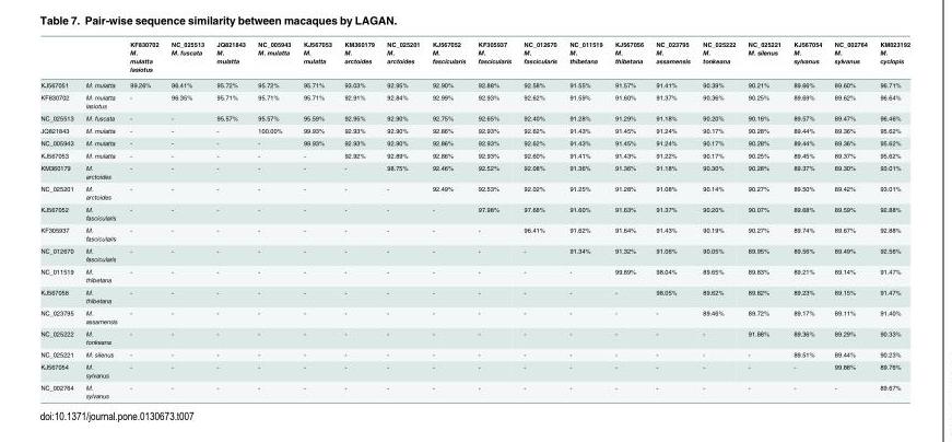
<table><thead><tr><td rowspan="2"></td><td rowspan="2"></td><td rowspan="2">KF830702 M. mulatta lasiotus</td><td rowspan="2">NC_025513 M. fuscata</td><td rowspan="2">JQ821843 M. mulatta</td><td rowspan="2">NC_005943 M. mulatta</td><td rowspan="2">KJ567053 M. mulatta</td><td rowspan="2">KM360179 M. arctoides</td><td rowspan="2">NC_025201 M. arctoides</td><td rowspan="2">KJ567052 M. fascicularis</td><td rowspan="2">KF305937 M. fascicularis</td><td rowspan="2">NC_012670 M. fascicularis</td><td rowspan="2">NC_011519 M. thibetana</td><td rowspan="2">KJ567056 M. thibetana</td><td rowspan="2">NC_023795 M. assamensis</td><td rowspan="2">NC_025222 M. tonkeana</td><td rowspan="2">NC_025221 M. silenus</td><td rowspan="2">KJ567054 M. sylvanus</td><td rowspan="2">NC_002764 M. sylvanus</td><td rowspan="2">KM023192 M. cyclopis</td></tr><tr></tr></thead><tbody><tr><td>KJ567051</td><td>M. mulatta</td><td>99.26%</td><td>96.41%</td><td>95.72%</td><td>95.72%</td><td>95.71%</td><td>93.03%</td><td>92.95%</td><td>92.90%</td><td>92.88%</td><td>92.58%</td><td>91.55%</td><td>91.57%</td><td>91.41%</td><td>90.39%</td><td>90.21%</td><td>89.66%</td><td>89.60%</td><td>96.71%</td></tr><tr><td>KF830702</td><td>M. mulatta lasiotus</td><td>-</td><td>96.35%</td><td>95.71%</td><td>95.71%</td><td>95.71%</td><td>92.91%</td><td>92.84%</td><td>92.99%</td><td>92.93%</td><td>92.62%</td><td>91.59%</td><td>91.60%</td><td>91.37%</td><td>90.36%</td><td>90.25%</td><td>89.69%</td><td>89.62%</td><td>96.64%</td></tr><tr><td>NC_025513</td><td>M. fuscata</td><td>-</td><td>-</td><td>95.57%</td><td>95.57%</td><td>95.59%</td><td>92.95%</td><td>92.90%</td><td>92.75%</td><td>92.65%</td><td>92.40%</td><td>91.28%</td><td>91.29%</td><td>91.18%</td><td>90.20%</td><td>90.16%</td><td>89.57%</td><td>89.47%</td><td>96.46%</td></tr><tr><td>JQ821843</td><td>M. mulatta</td><td>-</td><td>-</td><td>-</td><td>100.00%</td><td>99.93%</td><td>92.93%</td><td>92.90%</td><td>92.86%</td><td>92.93%</td><td>92.62%</td><td>91.43%</td><td>91.45%</td><td>91.24%</td><td>90.17%</td><td>90.28%</td><td>89.44%</td><td>89.36%</td><td>95.62%</td></tr><tr><td>NC_005943</td><td>M. mulatta</td><td>-</td><td>-</td><td>-</td><td>-</td><td>99.93%</td><td>92.93%</td><td>92.90%</td><td>92.86%</td><td>92.93%</td><td>92.62%</td><td>91.43%</td><td>91.45%</td><td>91.24%</td><td>90.17%</td><td>90.28%</td><td>89.44%</td><td>89.36%</td><td>95.62%</td></tr><tr><td>KJ567053</td><td>M. mulatta</td><td>-</td><td>-</td><td>-</td><td>-</td><td>-</td><td>92.92%</td><td>92.89%</td><td>92.86%</td><td>92.93%</td><td>92.60%</td><td>91.41%</td><td>91.43%</td><td>91.22%</td><td>90.17%</td><td>90.25%</td><td>89.45%</td><td>89.37%</td><td>95.62%</td></tr><tr><td>KM360179</td><td>M. arctoides</td><td>-</td><td>-</td><td>-</td><td>-</td><td>-</td><td>-</td><td>98.75%</td><td>92.46%</td><td>92.52%</td><td>92.08%</td><td>91.36%</td><td>91.36%</td><td>91.18%</td><td>90.30%</td><td>90.28%</td><td>89.37%</td><td>89.30%</td><td>93.01%</td></tr><tr><td>NC_025201</td><td>M. arctoides</td><td>-</td><td>-</td><td>-</td><td>-</td><td>-</td><td>-</td><td>-</td><td>92.49%</td><td>92.53%</td><td>92.02%</td><td>91.25%</td><td>91.28%</td><td>91.08%</td><td>90.14%</td><td>90.27%</td><td>89.50%</td><td>89.42%</td><td>93.01%</td></tr><tr><td>KJ567052</td><td>M. fascicularis</td><td>-</td><td>-</td><td>-</td><td>-</td><td>-</td><td>-</td><td>-</td><td>-</td><td>97.98%</td><td>97.68%</td><td>91.60%</td><td>91.63%</td><td>91.37%</td><td>90.20%</td><td>90.07%</td><td>89.68%</td><td>89.59%</td><td>92.88%</td></tr><tr><td>KF305937</td><td>M. fascicularis</td><td>-</td><td>-</td><td>-</td><td>-</td><td>-</td><td>-</td><td>-</td><td>-</td><td>-</td><td>96.41%</td><td>91.62%</td><td>91.64%</td><td>91.43%</td><td>90.19%</td><td>90.27%</td><td>89.74%</td><td>89.67%</td><td>92.88%</td></tr><tr><td>NC_012670</td><td>M. fascicularis</td><td>-</td><td>-</td><td>-</td><td>-</td><td>-</td><td>-</td><td>-</td><td>-</td><td>-</td><td>-</td><td>91.34%</td><td>91.32%</td><td>91.06%</td><td>90.05%</td><td>89.95%</td><td>89.56%</td><td>89.49%</td><td>92.56%</td></tr><tr><td>NC_011519</td><td>M. thibetana</td><td>-</td><td>-</td><td>-</td><td>-</td><td>-</td><td>-</td><td>-</td><td>-</td><td>-</td><td>-</td><td>-</td><td>99.89%</td><td>98.04%</td><td>89.65%</td><td>89.83%</td><td>89.21%</td><td>89.14%</td><td>91.47%</td></tr><tr><td>KJ567056</td><td>M. thibetana</td><td>-</td><td>-</td><td>-</td><td>-</td><td>-</td><td>-</td><td>-</td><td>-</td><td>-</td><td>-</td><td>-</td><td>-</td><td>98.05%</td><td>89.62%</td><td>89.82%</td><td>89.23%</td><td>89.15%</td><td>91.47%</td></tr><tr><td>NC_023795</td><td>M. assamensis</td><td>-</td><td>-</td><td>-</td><td>-</td><td>-</td><td>-</td><td>-</td><td>-</td><td>-</td><td>-</td><td>-</td><td>-</td><td>-</td><td>89.46%</td><td>89.72%</td><td>89.17%</td><td>89.11%</td><td>91.40%</td></tr><tr><td>NC_025222</td><td>M. tonkeana</td><td>-</td><td>-</td><td>-</td><td>-</td><td>-</td><td>-</td><td>-</td><td>-</td><td>-</td><td>-</td><td>-</td><td>-</td><td>-</td><td>-</td><td>91.88%</td><td>89.36%</td><td>89.29%</td><td>90.33%</td></tr><tr><td>NC_025221</td><td>M. silenus</td><td>-</td><td>-</td><td>-</td><td>-</td><td>-</td><td>-</td><td>-</td><td>-</td><td>-</td><td>-</td><td>-</td><td>-</td><td>-</td><td>-</td><td>-</td><td>89.51%</td><td>89.44%</td><td>90.23%</td></tr><tr><td>KJ567054</td><td>M. sylvanus</td><td>-</td><td>-</td><td>-</td><td>-</td><td>-</td><td>-</td><td>-</td><td>-</td><td>-</td><td>-</td><td>-</td><td>-</td><td>-</td><td>-</td><td>-</td><td>-</td><td>99.88%</td><td>89.76%</td></tr><tr><td>NC_002764</td><td>M. sylvanus</td><td>-</td><td>-</td><td>-</td><td>-</td><td>-</td><td>-</td><td>-</td><td>-</td><td>-</td><td>-</td><td>-</td><td>-</td><td>-</td><td>-</td><td>-</td><td>-</td><td>-</td><td>89.67%</td></tr></tbody></table>